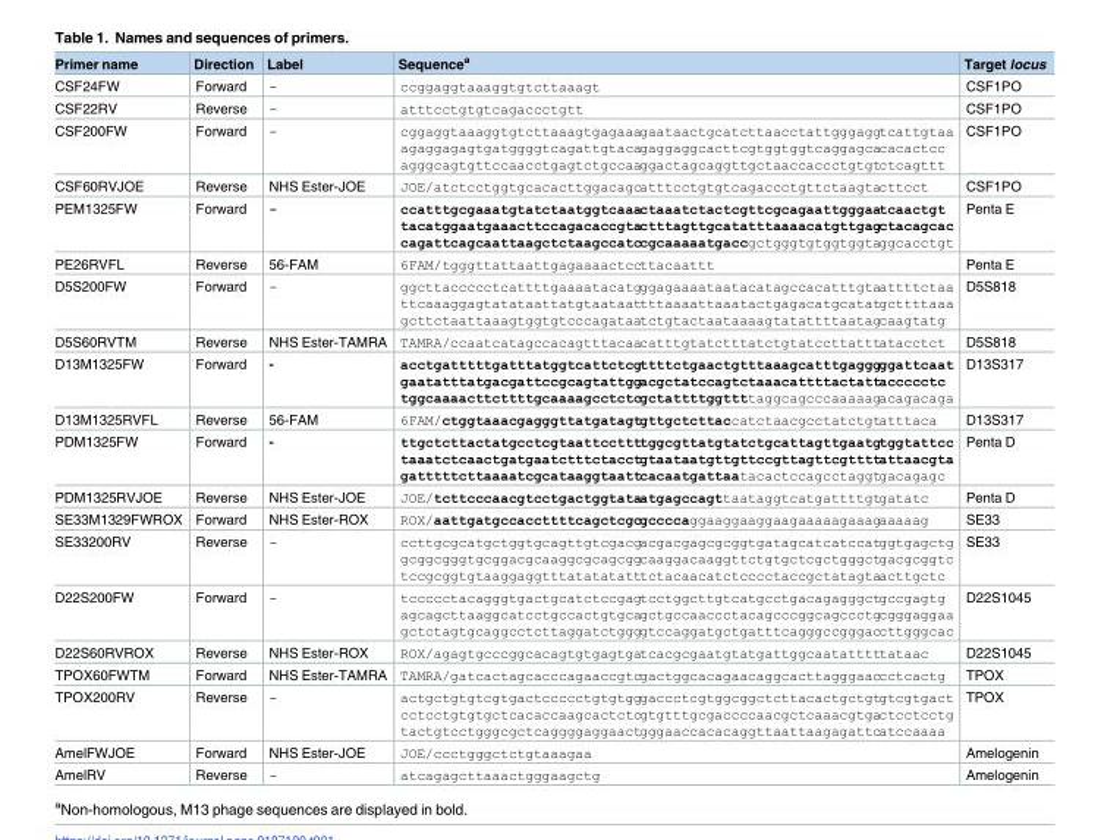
<table><thead><tr><td>Primer name</td><td>Direction</td><td>Label</td><td>Sequence<sup>a</sup></td><td>Target locus</td></tr></thead><tbody><tr><td>CSF24FW</td><td>Forward</td><td>-</td><td>ccggaggtaaaggtgtcttaaagt</td><td>CSF1PO</td></tr><tr><td>CSF22RV</td><td>Reverse</td><td>-</td><td>atttcctgtgtcagaccctgtt</td><td>CSF1PO</td></tr><tr><td>CSF200FW</td><td>Forward</td><td>-</td><td>cggaggtaaaggtgtcttaaagtgagaaagaataactgcatcttaacctattgggaggtcattgtaa agaggagagtgatggggtcagattgtacagaggaggcacttcgtggtggtcaggagcacacactcc agggcagtgttccaacctgagtctgccaaggactagcaggttgctaaccaccctgtgtctcagttt</td><td>CSF1PO</td></tr><tr><td>CSF60RVJOE</td><td>Reverse</td><td>NHS Ester-JOE</td><td>JOE/atctcctggtgcacacttggacagcatttcctgtgtcagaccctgttctaagtacttcct</td><td>CSF1PO</td></tr><tr><td>PEM1325FW</td><td>Forward</td><td>-</td><td>ccatttgcgaaatgtatctaatggtcaaactaaatctactcgttcgcagaattgggaatcaactgt tacatggaatgaaacttccagacaccgtactttagttgcatatttaaaacatgttgagctacagcac cagattcagcaattaagctctaagccatccgcaaaaatgaccgctgggtgtggtggtaggcacctgt</td><td>Penta E</td></tr><tr><td>PE26RVFL</td><td>Reverse</td><td>56-FAM</td><td>6FAM/tgggttattaattgagaaaactccttacaattt</td><td>Penta E</td></tr><tr><td>D5S200FW</td><td>Forward</td><td>-</td><td>ggcttaccccctcattttgaaaatacatgggagaaaataatacatagccacatttgtaattttctaa ttcaaaggagtatataattatgtaataattttaaaattaaatactgagacatgcatatgcttttaaa gcttctaattaaagtggtgtcccagataatctgtactaataaaagtatattttaatagcaagtatg</td><td>D5S818</td></tr><tr><td>D5S60RVTM</td><td>Reverse</td><td>NHS Ester-TAMRA</td><td>TAMRA/ccaatcatagccacagtttacaacatttgtatctttatctgtatccttatttatacctct</td><td>D5S818</td></tr><tr><td>D13M1325FW</td><td>Forward</td><td>-</td><td>acctgatttttgatttatggtcattctcgttttctgaactgtttaaagcatttgagggggattcaat gaatatttatgacgattccgcagtattggacgctatccagtctaaacattttactattaccccctc tggcaaaacttcttttgcaaaagcctctcgctattttggttttaggcagcccaaaaagacagacaga</td><td>D13S317</td></tr><tr><td>D13M1325RVFL</td><td>Reverse</td><td>56-FAM</td><td>6FAM/ctggtaaacgagggttatgatagtgttgctcttaccatctaacgcctatctgtatttaca</td><td>D13S317</td></tr><tr><td>PDM1325FW</td><td>Forward</td><td>-</td><td>ttgctcttactatgcctcgtaattccttttggcgttatgtatctgcattagttgaatgtggtattcc taaatctcaactgatgaatctttctacctgtaataatgttgttccgttagttcgttttattaacgta gatttttcttaaaatcgcataaggtaattcacaatgattaatacactccagcctaggtgacagagc</td><td>Penta D</td></tr><tr><td>PDM1325RVJOE</td><td>Reverse</td><td>NHS Ester-JOE</td><td>JOE/tcttcccaacgtcctgactggtataatgagccagttaataggtcatgattttgtgatatc</td><td>Penta D</td></tr><tr><td>SE33M1329FWROX</td><td>Forward</td><td>NHS Ester-ROX</td><td>ROX/aattgatgccaccttttcagctcgcgccccaggaaggaaggaagaaaaagaaagaaaaag</td><td>SE33</td></tr><tr><td>SE33200RV</td><td>Reverse</td><td>-</td><td>ccttgcgcatgctggtgcagttgtcgacgacgacgagcgcggtgatagcatcatccatggtgagctg gcggcgggtgcggacgcaaggcgcagcggcaaggacaaggttctgtgctcgctgggctgacgcggtc tccgcggtgtaaggaggtttatatatatttctacaacatctcccctaccgctatagtaacttgctc</td><td>SE33</td></tr><tr><td>D22S200FW</td><td>Forward</td><td>-</td><td>tccccctacagggtgactgcatctccgagtcctggcttgtcatgcctgacagagggctgccgagtg agcagcttaaggcatcctgccactgtgcagctgccaaccctacagcccggcagccctgcgggaggaa gctctagtgcaggcctcttaggatctggggtccaggatgctgatttcagggccgggaccttgggcac</td><td>D22S1045</td></tr><tr><td>D22S60RVROX</td><td>Reverse</td><td>NHS Ester-ROX</td><td>ROX/agagtgcccggcacagtgtgagtgatcacgcgaatgtatgattggcaatatttttataac</td><td>D22S1045</td></tr><tr><td>TPOX60FWTM</td><td>Forward</td><td>NHS Ester-TAMRA</td><td>TAMRA/gatcactagcacccagaaccgtcgactggcacagaacaggcacttagggaaccctcactg</td><td>TPOX</td></tr><tr><td>TPOX200RV</td><td>Reverse</td><td>-</td><td>actgctgtgtcgtgactccccctgtgtgggaccctcgtggcggctcttacactgctgtgtcgtgact cctcctgtgtgctcacaccaagcactctcgtgtttgcgaccccaacgctcaaacgtgactcctcctg tactgtcctgggcgctcaggggaggaactgggaaccacacaggttaattaagagattcatccaaaa</td><td>TPOX</td></tr><tr><td>AmelFWJOE</td><td>Forward</td><td>NHS Ester-JOE</td><td>JOE/ccctgggctctgtaaagaa</td><td>Amelogenin</td></tr><tr><td>AmelRV</td><td>Reverse</td><td>-</td><td>atcagagcttaaactgggaagctg</td><td>Amelogenin</td></tr></tbody></table>